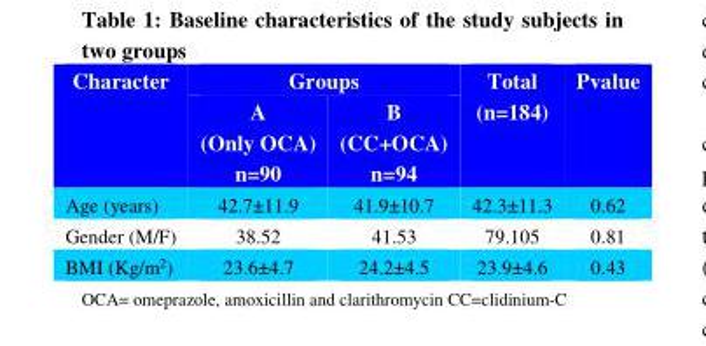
<table><thead><tr><td rowspan="2">Character</td><td colspan="2">Groups</td><td rowspan="2">Total (n=184)</td><td rowspan="2">Pvalue</td></tr><tr><td>A (Only OCA) n=90</td><td>B (CC+OCA) n=94</td></tr></thead><tbody><tr><td>Age (years)</td><td>42.7±11.9</td><td>41.9±10.7</td><td>42.3±11.3</td><td>0.62</td></tr><tr><td>Gender (M/F)</td><td>38.52</td><td>41.53</td><td>79.105</td><td>0.81</td></tr><tr><td>BMI (Kg/m<sup>2</sup>)</td><td>23.6±4.7</td><td>24.2±4.5</td><td>23.9±4.6</td><td>0.43</td></tr></tbody></table>